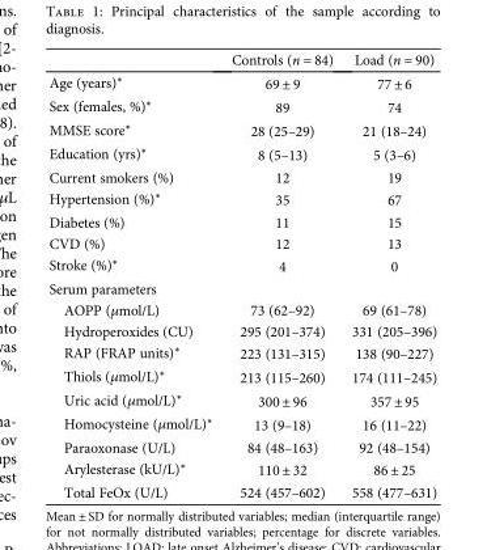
<table><thead><tr><td></td><td>Controls (n = 84)</td><td>Load (n = 90)</td></tr></thead><tbody><tr><td>Age (years)∗</td><td>69 ± 9</td><td>77 ± 6</td></tr><tr><td>Sex (females, %)∗</td><td>89</td><td>74</td></tr><tr><td>MMSE score∗</td><td>28 (25–29)</td><td>21 (18–24)</td></tr><tr><td>Education (yrs)∗</td><td>8 (5–13)</td><td>5 (3–6)</td></tr><tr><td>Current smokers (%)</td><td>12</td><td>19</td></tr><tr><td>Hypertension (%)∗</td><td>35</td><td>67</td></tr><tr><td>Diabetes (%)</td><td>11</td><td>15</td></tr><tr><td>CVD (%)</td><td>12</td><td>13</td></tr><tr><td>Stroke (%)∗</td><td>4</td><td>0</td></tr><tr><td colspan="3">Serum parameters</td></tr><tr><td>AOPP (μmol/L)</td><td>73 (62–92)</td><td>69 (61–78)</td></tr><tr><td>Hydroperoxides (CU)</td><td>295 (201–374)</td><td>331 (205–396)</td></tr><tr><td>RAP (FRAP units)∗</td><td>223 (131–315)</td><td>138 (90–227)</td></tr><tr><td>Thiols (μmol/L)∗</td><td>213 (115–260)</td><td>174 (111–245)</td></tr><tr><td>Uric acid (μmol/L)∗</td><td>300 ± 96</td><td>357 ± 95</td></tr><tr><td>Homocysteine (μmol/L)∗</td><td>13 (9–18)</td><td>16 (11–22)</td></tr><tr><td>Paraoxonase (U/L)</td><td>84 (48–163)</td><td>92 (48–154)</td></tr><tr><td>Arylesterase (kU/L)∗</td><td>110 ± 32</td><td>86 ± 25</td></tr><tr><td>Total FeOx (U/L)</td><td>524 (457–602)</td><td>558 (477–631)</td></tr></tbody></table>